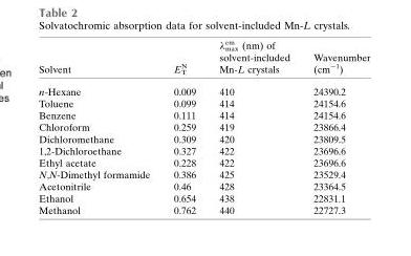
<table><thead><tr><td>Solvent</td><td>E<sub>T</sub> <sup>N</sup></td><td>�max em (nm) of solvent-included Mn-L crystals</td><td>Wavenumber (cm�1)</td></tr></thead><tbody><tr><td>n-Hexane</td><td>0.009</td><td>410</td><td>24390.2</td></tr><tr><td>Toluene</td><td>0.099</td><td>414</td><td>24154.6</td></tr><tr><td>Benzene</td><td>0.111</td><td>414</td><td>24154.6</td></tr><tr><td>Chloroform</td><td>0.259</td><td>419</td><td>23866.4</td></tr><tr><td>Dichloromethane</td><td>0.309</td><td>420</td><td>23809.5</td></tr><tr><td>1,2-Dichloroethane</td><td>0.327</td><td>422</td><td>23696.6</td></tr><tr><td>Ethyl acetate</td><td>0.228</td><td>422</td><td>23696.6</td></tr><tr><td>N,N-Dimethyl formamide</td><td>0.386</td><td>425</td><td>23529.4</td></tr><tr><td>Acetonitrile</td><td>0.46</td><td>428</td><td>23364.5</td></tr><tr><td>Ethanol</td><td>0.654</td><td>438</td><td>22831.1</td></tr><tr><td>Methanol</td><td>0.762</td><td>440</td><td>22727.3</td></tr></tbody></table>